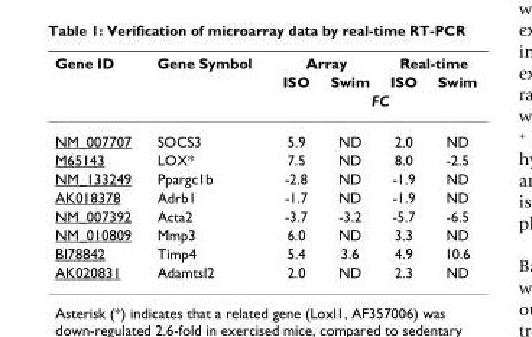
<table><thead><tr><td rowspan="3">Gene ID</td><td rowspan="3">Gene Symbol</td><td colspan="2">Array</td><td colspan="2">Real-time</td></tr><tr><td>ISO</td><td>Swim</td><td>ISO</td><td>Swim</td></tr><tr><td colspan="4">FC</td></tr></thead><tbody><tr><td>NM_007707</td><td>SOCS3</td><td>5.9</td><td>ND</td><td>2.0</td><td>ND</td></tr><tr><td>M65143</td><td>LOX*</td><td>7.5</td><td>ND</td><td>8.0</td><td>-2.5</td></tr><tr><td>NM_133249</td><td>Ppargc1b</td><td>-2.8</td><td>ND</td><td>-1.9</td><td>ND</td></tr><tr><td>AK018378</td><td>Adrb1</td><td>-1.7</td><td>ND</td><td>-1.9</td><td>ND</td></tr><tr><td>NM_007392</td><td>Acta2</td><td>-3.7</td><td>-3.2</td><td>-5.7</td><td>-6.5</td></tr><tr><td>NM_010809</td><td>Mmp3</td><td>6.0</td><td>ND</td><td>3.3</td><td>ND</td></tr><tr><td>BI78842</td><td>Timp4</td><td>5.4</td><td>3.6</td><td>4.9</td><td>10.6</td></tr><tr><td>AK020831</td><td>Adamtsl2</td><td>2.0</td><td>ND</td><td>2.3</td><td>ND</td></tr></tbody></table>